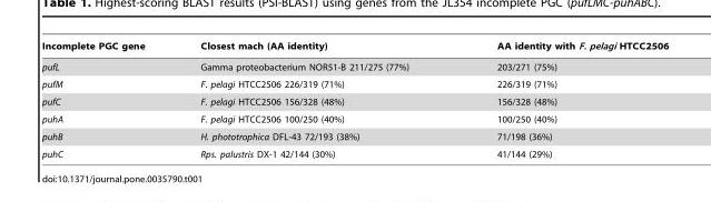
<table><thead><tr><td>Incomplete PGC gene</td><td>Closest mach (AA identity)</td><td>AA identity with F. pelagi HTCC2506</td></tr></thead><tbody><tr><td>pufL</td><td>Gamma proteobacterium NOR51-B 211/275 (77%)</td><td>203/271 (75%)</td></tr><tr><td>pufM</td><td>F. pelagi HTCC2506 226/319 (71%)</td><td>226/319 (71%)</td></tr><tr><td>pufC</td><td>F. pelagi HTCC2506 156/328 (48%)</td><td>156/328 (48%)</td></tr><tr><td>puhA</td><td>F. pelagi HTCC2506 100/250 (40%)</td><td>100/250 (40%)</td></tr><tr><td>puhB</td><td>H. phototrophica DFL-43 72/193 (38%)</td><td>71/198 (36%)</td></tr><tr><td>puhC</td><td>Rps. palustris DX-1 42/144 (30%)</td><td>41/144 (29%)</td></tr></tbody></table>